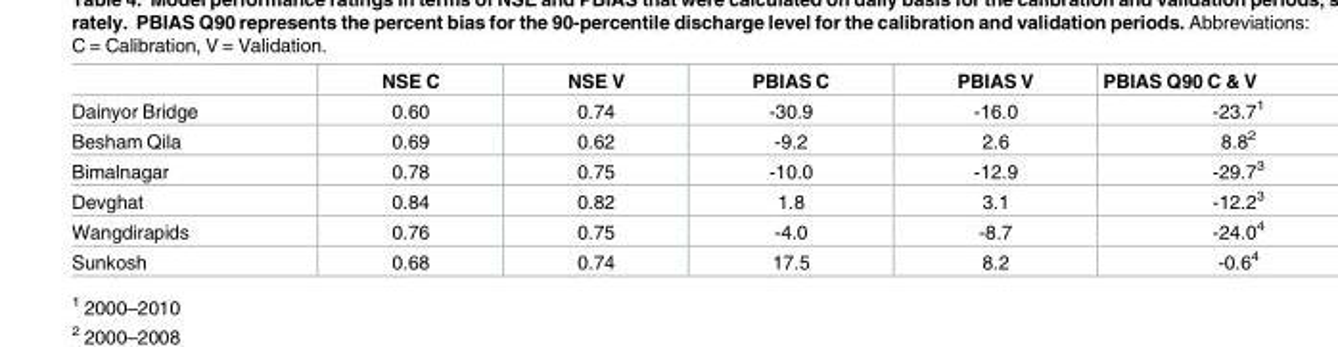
<table><thead><tr><td></td><td>NSE C</td><td>NSE V</td><td>PBIAS C</td><td>PBIAS V</td><td>PBIAS Q90 C &amp; V</td></tr></thead><tbody><tr><td>Dainyor Bridge</td><td>0.60</td><td>0.74</td><td>-30.9</td><td>-16.0</td><td>-23.7<sup>1</sup></td></tr><tr><td>Besham Qila</td><td>0.69</td><td>0.62</td><td>-9.2</td><td>2.6</td><td>8.8<sup>2</sup></td></tr><tr><td>Bimalnagar</td><td>0.78</td><td>0.75</td><td>-10.0</td><td>-12.9</td><td>-29.7<sup>3</sup></td></tr><tr><td>Devghat</td><td>0.84</td><td>0.82</td><td>1.8</td><td>3.1</td><td>-12.2<sup>3</sup></td></tr><tr><td>Wangdirapids</td><td>0.76</td><td>0.75</td><td>-4.0</td><td>-8.7</td><td>-24.0<sup>4</sup></td></tr><tr><td>Sunkosh</td><td>0.68</td><td>0.74</td><td>17.5</td><td>8.2</td><td>-0.6<sup>4</sup></td></tr></tbody></table>